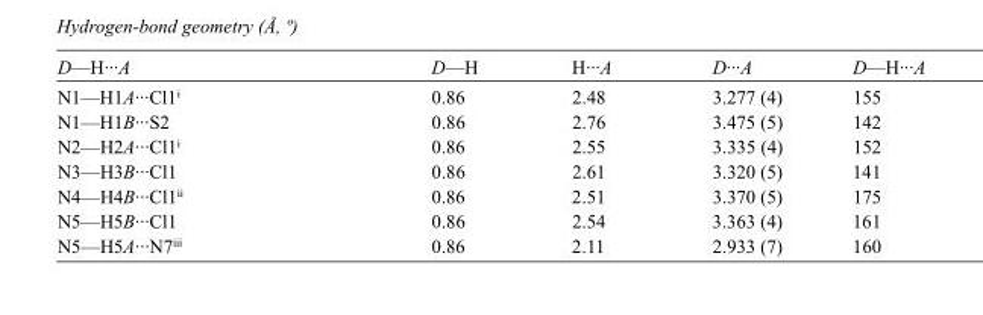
<table><tbody><tr><td>D—H···A</td><td>D—H</td><td>H···A</td><td>D···A</td><td>D—H···A</td></tr><tr><td>N1—H1A···Cl1<sup>i</sup></td><td>0.86</td><td>2.48</td><td>3.277 (4)</td><td>155</td></tr><tr><td>N1—H1B···S2</td><td>0.86</td><td>2.76</td><td>3.475 (5)</td><td>142</td></tr><tr><td>N2—H2A···Cl1<sup>i</sup></td><td>0.86</td><td>2.55</td><td>3.335 (4)</td><td>152</td></tr><tr><td>N3—H3B···Cl1</td><td>0.86</td><td>2.61</td><td>3.320 (5)</td><td>141</td></tr><tr><td>N4—H4B···Cl1<sup>ii</sup></td><td>0.86</td><td>2.51</td><td>3.370 (5)</td><td>175</td></tr><tr><td>N5—H5B···Cl1</td><td>0.86</td><td>2.54</td><td>3.363 (4)</td><td>161</td></tr><tr><td>N5—H5A···N7<sup>iii</sup></td><td>0.86</td><td>2.11</td><td>2.933 (7)</td><td>160</td></tr></tbody></table>